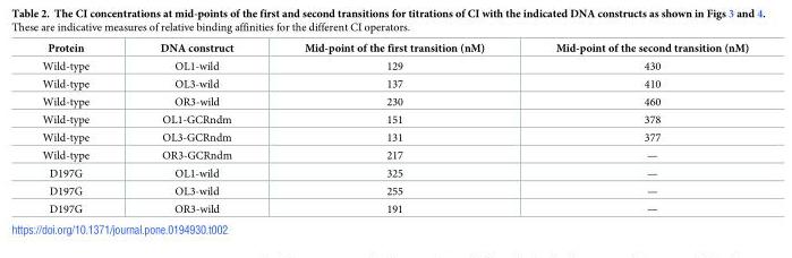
<table><thead><tr><td>Protein</td><td>DNA construct</td><td>Mid-point of the first transition (nM)</td><td>Mid-point of the second transition (nM)</td></tr></thead><tbody><tr><td>Wild-type</td><td>OL1-wild</td><td>129</td><td>430</td></tr><tr><td>Wild-type</td><td>OL3-wild</td><td>137</td><td>410</td></tr><tr><td>Wild-type</td><td>OR3-wild</td><td>230</td><td>460</td></tr><tr><td>Wild-type</td><td>OL1-GCRndm</td><td>151</td><td>378</td></tr><tr><td>Wild-type</td><td>OL3-GCRndm</td><td>131</td><td>377</td></tr><tr><td>Wild-type</td><td>OR3-GCRndm</td><td>217</td><td>—</td></tr><tr><td>D197G</td><td>OL1-wild</td><td>325</td><td>—</td></tr><tr><td>D197G</td><td>OL3-wild</td><td>255</td><td>—</td></tr><tr><td>D197G</td><td>OR3-wild</td><td>191</td><td>—</td></tr></tbody></table>